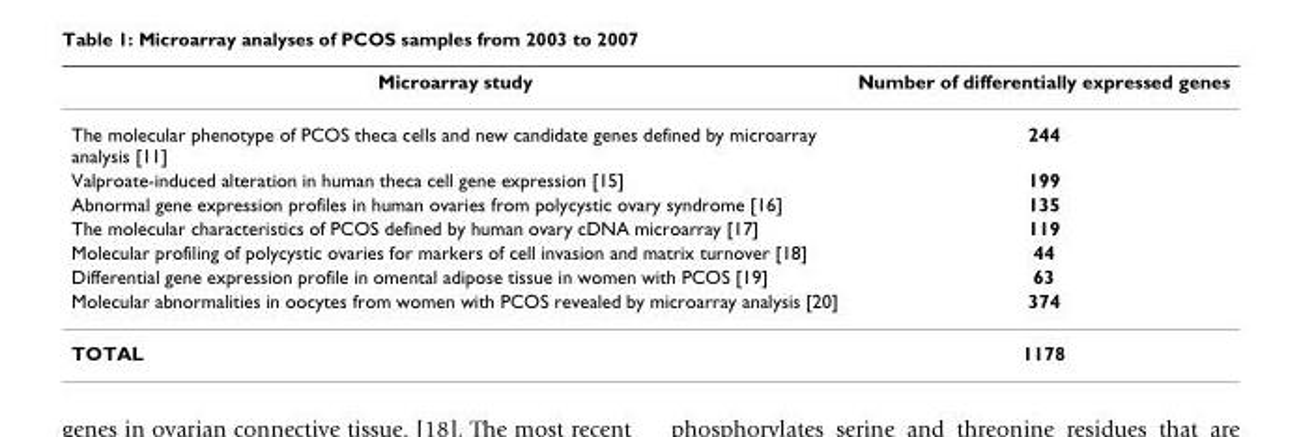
<table><thead><tr><td>Microarray study</td><td>Number of differentially expressed genes</td></tr></thead><tbody><tr><td>The molecular phenotype of PCOS theca cells and new candidate genes defined by microarray analysis [11]</td><td>244</td></tr><tr><td>Valproate-induced alteration in human theca cell gene expression [15]</td><td>199</td></tr><tr><td>Abnormal gene expression profiles in human ovaries from polycystic ovary syndrome [16]</td><td>135</td></tr><tr><td>The molecular characteristics of PCOS defined by human ovary cDNA microarray [17]</td><td>119</td></tr><tr><td>Molecular profiling of polycystic ovaries for markers of cell invasion and matrix turnover [18]</td><td>44</td></tr><tr><td>Differential gene expression profile in omental adipose tissue in women with PCOS [19]</td><td>63</td></tr><tr><td>Molecular abnormalities in oocytes from women with PCOS revealed by microarray analysis [20]</td><td>374</td></tr><tr><td>TOTAL</td><td>1178</td></tr></tbody></table>